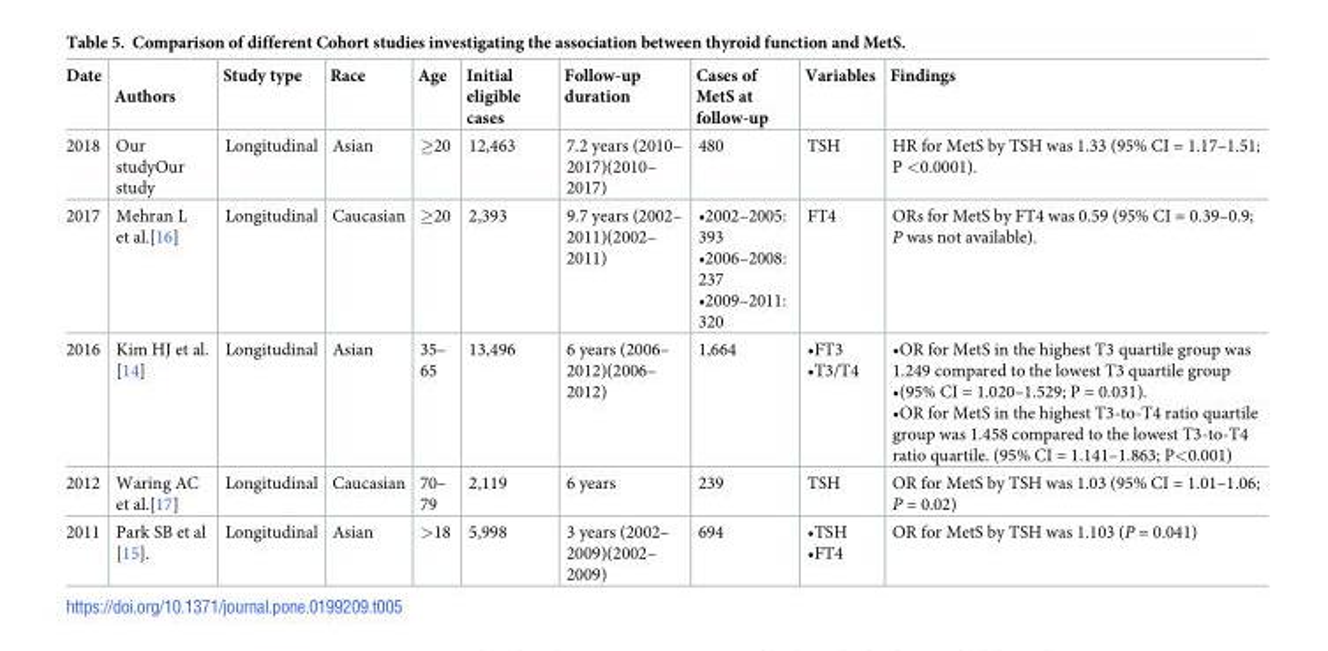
<table><thead><tr><td>Date</td><td>Authors</td><td>Study type</td><td>Race</td><td>Age</td><td>Initial eligible cases</td><td>Follow-up duration</td><td>Cases of MetS at follow-up</td><td>Variables</td><td>Findings</td></tr></thead><tbody><tr><td>2018</td><td>Our studyOur study</td><td>Longitudinal</td><td>Asian</td><td>≥20</td><td>12,463</td><td>7.2 years (2010– 2017)(2010– 2017)</td><td>480</td><td>TSH</td><td>HR for MetS by TSH was 1.33 (95% CI = 1.17–1.51; P &lt;0.0001).</td></tr><tr><td>2017</td><td>Mehran L et al.[16]</td><td>Longitudinal</td><td>Caucasian</td><td>≥20</td><td>2,393</td><td>9.7 years (2002– 2011)(2002– 2011)</td><td>•2002–2005: 393 •2006–2008: 237 •2009–2011: 320</td><td>FT4</td><td>ORs for MetS by FT4 was 0.59 (95% CI = 0.39–0.9; P was not available).</td></tr><tr><td>2016</td><td>Kim HJ et al. [14]</td><td>Longitudinal</td><td>Asian</td><td>35– 65</td><td>13,496</td><td>6 years (2006– 2012)(2006– 2012)</td><td>1,664</td><td>•FT3 •T3/T4</td><td>•OR for MetS in the highest T3 quartile group was 1.249 compared to the lowest T3 quartile group •(95% CI = 1.020–1.529; P = 0.031). •OR for MetS in the highest T3-to-T4 ratio quartile group was 1.458 compared to the lowest T3-to-T4 ratio quartile. (95% CI = 1.141–1.863; P&lt;0.001)</td></tr><tr><td>2012</td><td>Waring AC et al.[17]</td><td>Longitudinal</td><td>Caucasian</td><td>70– 79</td><td>2,119</td><td>6 years</td><td>239</td><td>TSH</td><td>OR for MetS by TSH was 1.03 (95% CI = 1.01–1.06; P = 0.02)</td></tr><tr><td>2011</td><td>Park SB et al [15].</td><td>Longitudinal</td><td>Asian</td><td>&gt;18</td><td>5,998</td><td>3 years (2002– 2009)(2002– 2009)</td><td>694</td><td>•TSH •FT4</td><td>OR for MetS by TSH was 1.103 (P = 0.041)</td></tr></tbody></table>